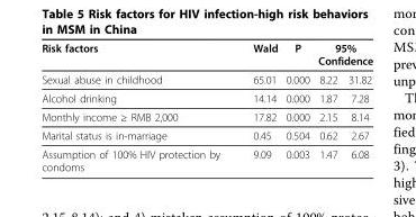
<table><thead><tr><td rowspan="2">Risk factors Sexual abuse in childhood</td><td rowspan="2">Wald 65.01</td><td rowspan="2">P 0.000</td><td colspan="2">95% Confidence</td></tr><tr><td>8.22</td><td>31.82</td></tr></thead><tbody><tr><td>Alcohol drinking</td><td>14.14</td><td>0.000</td><td>1.87</td><td>7.28</td></tr><tr><td>Monthly income ≥ RMB 2,000</td><td>17.82</td><td>0.000</td><td>2.15</td><td>8.14</td></tr><tr><td>Marital status is in-marriage</td><td>0.45</td><td>0.504</td><td>0.62</td><td>2.67</td></tr><tr><td>Assumption of 100% HIV protection by condoms</td><td>9.09</td><td>0.003</td><td>1.47</td><td>6.08</td></tr></tbody></table>